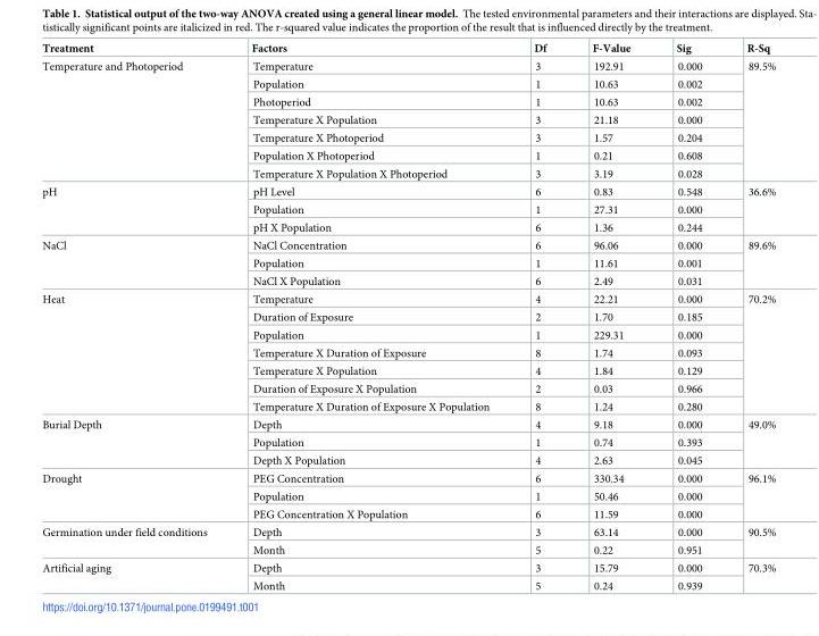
<table><thead><tr><td>Treatment</td><td>Factors</td><td>Df</td><td>F-Value</td><td>Sig</td><td>R-Sq</td></tr></thead><tbody><tr><td rowspan="7">Temperature and Photoperiod</td><td>Temperature</td><td>3</td><td>192.91</td><td>0.000</td><td rowspan="7">89.5%</td></tr><tr><td>Population</td><td>1</td><td>10.63</td><td>0.002</td></tr><tr><td>Photoperiod</td><td>1</td><td>10.63</td><td>0.002</td></tr><tr><td>Temperature X Population</td><td>3</td><td>21.18</td><td>0.000</td></tr><tr><td>Temperature X Photoperiod</td><td>3</td><td>1.57</td><td>0.204</td></tr><tr><td>Population X Photoperiod</td><td>1</td><td>0.21</td><td>0.608</td></tr><tr><td>Temperature X Population X Photoperiod</td><td>3</td><td>3.19</td><td>0.028</td></tr><tr><td rowspan="3">pH</td><td>pH Level</td><td>6</td><td>0.83</td><td>0.548</td><td rowspan="3">36.6%</td></tr><tr><td>Population</td><td>1</td><td>27.31</td><td>0.000</td></tr><tr><td>pH X Population</td><td>6</td><td>1.36</td><td>0.244</td></tr><tr><td rowspan="3">NaCl</td><td>NaCl Concentration</td><td>6</td><td>96.06</td><td>0.000</td><td rowspan="3">89.6%</td></tr><tr><td>Population</td><td>1</td><td>11.61</td><td>0.001</td></tr><tr><td>NaCl X Population</td><td>6</td><td>2.49</td><td>0.031</td></tr><tr><td rowspan="7">Heat</td><td>Temperature</td><td>4</td><td>22.21</td><td>0.000</td><td rowspan="7">70.2%</td></tr><tr><td>Duration of Exposure</td><td>2</td><td>1.70</td><td>0.185</td></tr><tr><td>Population</td><td>1</td><td>229.31</td><td>0.000</td></tr><tr><td>Temperature X Duration of Exposure</td><td>8</td><td>1.74</td><td>0.093</td></tr><tr><td>Temperature X Population</td><td>4</td><td>1.84</td><td>0.129</td></tr><tr><td>Duration of Exposure X Population</td><td>2</td><td>0.03</td><td>0.966</td></tr><tr><td>Temperature X Duration of Exposure X Population</td><td>8</td><td>1.24</td><td>0.280</td></tr><tr><td rowspan="3">Burial Depth</td><td>Depth</td><td>4</td><td>9.18</td><td>0.000</td><td rowspan="3">49.0%</td></tr><tr><td>Population</td><td>1</td><td>0.74</td><td>0.393</td></tr><tr><td>Depth X Population</td><td>4</td><td>2.63</td><td>0.045</td></tr><tr><td rowspan="3">Drought</td><td>PEG Concentration</td><td>6</td><td>330.34</td><td>0.000</td><td rowspan="3">96.1%</td></tr><tr><td>Population</td><td>1</td><td>50.46</td><td>0.000</td></tr><tr><td>PEG Concentration X Population</td><td>6</td><td>11.59</td><td>0.000</td></tr><tr><td rowspan="2">Germination under field conditions</td><td>Depth</td><td>3</td><td>63.14</td><td>0.000</td><td rowspan="2">90.5%</td></tr><tr><td>Month</td><td>5</td><td>0.22</td><td>0.951</td></tr><tr><td rowspan="2">Artificial aging</td><td>Depth</td><td>3</td><td>15.79</td><td>0.000</td><td rowspan="2">70.3%</td></tr><tr><td>Month</td><td>5</td><td>0.24</td><td>0.939</td></tr></tbody></table>